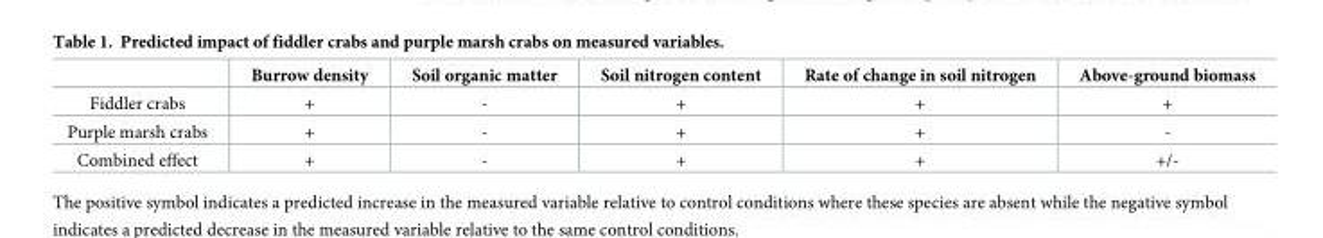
<table><thead><tr><td></td><td>Burrow density</td><td>Soil organic matter</td><td>Soil nitrogen content</td><td>Rate of change in soil nitrogen</td><td>Above-ground biomass</td></tr></thead><tbody><tr><td>Fiddler crabs</td><td>+</td><td>-</td><td>+</td><td>+</td><td>+</td></tr><tr><td>Purple marsh crabs</td><td>+</td><td>-</td><td>+</td><td>+</td><td>-</td></tr><tr><td>Combined effect</td><td>+</td><td>-</td><td>+</td><td>+</td><td>+/-</td></tr></tbody></table>